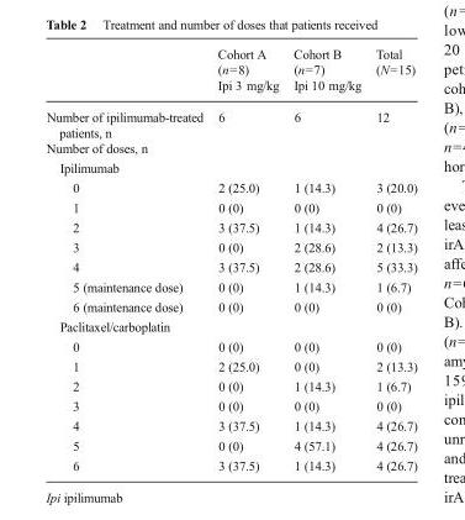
<table><thead><tr><td rowspan="3"></td><td rowspan="3">Cohort A (n=8) Ipi 3 mg/kg</td><td rowspan="3">Cohort B (n=7) Ipi 10 mg/kg</td><td rowspan="3">Total (N=15)</td></tr><tr></tr><tr></tr></thead><tbody><tr><td>Number of ipilimumab-treated patients, n</td><td>6</td><td>6</td><td>12</td></tr><tr><td colspan="4">Number of doses, n</td></tr><tr><td colspan="4">Ipilimumab</td></tr><tr><td>0</td><td>2 (25.0)</td><td>1 (14.3)</td><td>3 (20.0)</td></tr><tr><td>1</td><td>0 (0)</td><td>0 (0)</td><td>0 (0)</td></tr><tr><td>2</td><td>3 (37.5)</td><td>1 (14.3)</td><td>4 (26.7)</td></tr><tr><td>3</td><td>0 (0)</td><td>2 (28.6)</td><td>2 (13.3)</td></tr><tr><td>4</td><td>3 (37.5)</td><td>2 (28.6)</td><td>5 (33.3)</td></tr><tr><td>5 (maintenance dose)</td><td>0 (0)</td><td>1 (14.3)</td><td>1 (6.7)</td></tr><tr><td>6 (maintenance dose)</td><td>0 (0)</td><td>0 (0)</td><td>0 (0)</td></tr><tr><td colspan="4">Paclitaxel/carboplatin</td></tr><tr><td>0</td><td>0 (0)</td><td>0 (0)</td><td>0 (0)</td></tr><tr><td>1</td><td>2 (25.0)</td><td>0 (0)</td><td>2 (13.3)</td></tr><tr><td>2</td><td>0 (0)</td><td>1 (14.3)</td><td>1 (6.7)</td></tr><tr><td>3</td><td>0 (0)</td><td>0 (0)</td><td>0 (0)</td></tr><tr><td>4</td><td>3 (37.5)</td><td>1 (14.3)</td><td>4 (26.7)</td></tr><tr><td>5</td><td>0 (0)</td><td>4 (57.1)</td><td>4 (26.7)</td></tr><tr><td>6</td><td>3 (37.5)</td><td>1 (14.3)</td><td>4 (26.7)</td></tr></tbody></table>